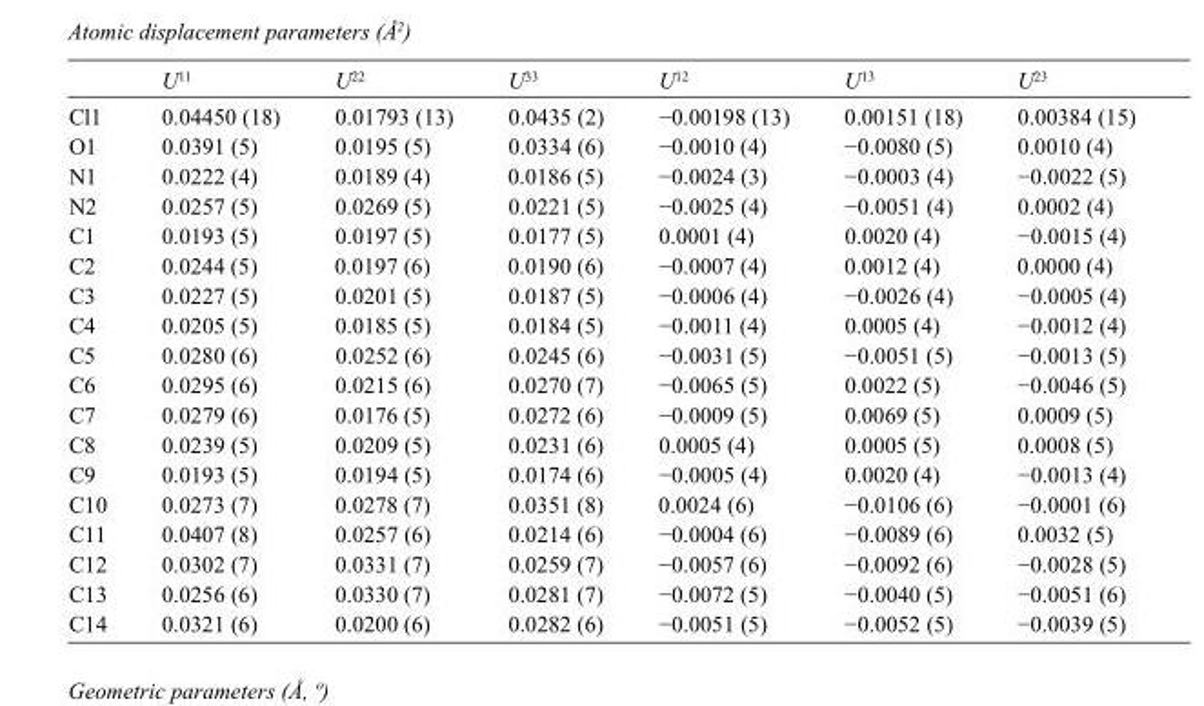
<table><thead><tr><td></td><td>U<sup>11</sup></td><td>U<sup>22</sup></td><td>U<sup>33</sup></td><td>U<sup>12</sup></td><td>U<sup>13</sup></td><td>U<sup>23</sup></td></tr></thead><tbody><tr><td>Cl1</td><td>0.04450 (18)</td><td>0.01793 (13)</td><td>0.0435 (2)</td><td>−0.00198 (13)</td><td>0.00151 (18)</td><td>0.00384 (15)</td></tr><tr><td>O1</td><td>0.0391 (5)</td><td>0.0195 (5)</td><td>0.0334 (6)</td><td>−0.0010 (4)</td><td>−0.0080 (5)</td><td>0.0010 (4)</td></tr><tr><td>N1</td><td>0.0222 (4)</td><td>0.0189 (4)</td><td>0.0186 (5)</td><td>−0.0024 (3)</td><td>−0.0003 (4)</td><td>−0.0022 (5)</td></tr><tr><td>N2</td><td>0.0257 (5)</td><td>0.0269 (5)</td><td>0.0221 (5)</td><td>−0.0025 (4)</td><td>−0.0051 (4)</td><td>0.0002 (4)</td></tr><tr><td>C1</td><td>0.0193 (5)</td><td>0.0197 (5)</td><td>0.0177 (5)</td><td>0.0001 (4)</td><td>0.0020 (4)</td><td>−0.0015 (4)</td></tr><tr><td>C2</td><td>0.0244 (5)</td><td>0.0197 (6)</td><td>0.0190 (6)</td><td>−0.0007 (4)</td><td>0.0012 (4)</td><td>0.0000 (4)</td></tr><tr><td>C3</td><td>0.0227 (5)</td><td>0.0201 (5)</td><td>0.0187 (5)</td><td>−0.0006 (4)</td><td>−0.0026 (4)</td><td>−0.0005 (4)</td></tr><tr><td>C4</td><td>0.0205 (5)</td><td>0.0185 (5)</td><td>0.0184 (5)</td><td>−0.0011 (4)</td><td>0.0005 (4)</td><td>−0.0012 (4)</td></tr><tr><td>C5</td><td>0.0280 (6)</td><td>0.0252 (6)</td><td>0.0245 (6)</td><td>−0.0031 (5)</td><td>−0.0051 (5)</td><td>−0.0013 (5)</td></tr><tr><td>C6</td><td>0.0295 (6)</td><td>0.0215 (6)</td><td>0.0270 (7)</td><td>−0.0065 (5)</td><td>0.0022 (5)</td><td>−0.0046 (5)</td></tr><tr><td>C7</td><td>0.0279 (6)</td><td>0.0176 (5)</td><td>0.0272 (6)</td><td>−0.0009 (5)</td><td>0.0069 (5)</td><td>0.0009 (5)</td></tr><tr><td>C8</td><td>0.0239 (5)</td><td>0.0209 (5)</td><td>0.0231 (6)</td><td>0.0005 (4)</td><td>0.0005 (5)</td><td>0.0008 (5)</td></tr><tr><td>C9</td><td>0.0193 (5)</td><td>0.0194 (5)</td><td>0.0174 (6)</td><td>−0.0005 (4)</td><td>0.0020 (4)</td><td>−0.0013 (4)</td></tr><tr><td>C10</td><td>0.0273 (7)</td><td>0.0278 (7)</td><td>0.0351 (8)</td><td>0.0024 (6)</td><td>−0.0106 (6)</td><td>−0.0001 (6)</td></tr><tr><td>C11</td><td>0.0407 (8)</td><td>0.0257 (6)</td><td>0.0214 (6)</td><td>−0.0004 (6)</td><td>−0.0089 (6)</td><td>0.0032 (5)</td></tr><tr><td>C12</td><td>0.0302 (7)</td><td>0.0331 (7)</td><td>0.0259 (7)</td><td>−0.0057 (6)</td><td>−0.0092 (6)</td><td>−0.0028 (5)</td></tr><tr><td>C13</td><td>0.0256 (6)</td><td>0.0330 (7)</td><td>0.0281 (7)</td><td>−0.0072 (5)</td><td>−0.0040 (5)</td><td>−0.0051 (6)</td></tr><tr><td>C14</td><td>0.0321 (6)</td><td>0.0200 (6)</td><td>0.0282 (6)</td><td>−0.0051 (5)</td><td>−0.0052 (5)</td><td>−0.0039 (5)</td></tr></tbody></table>